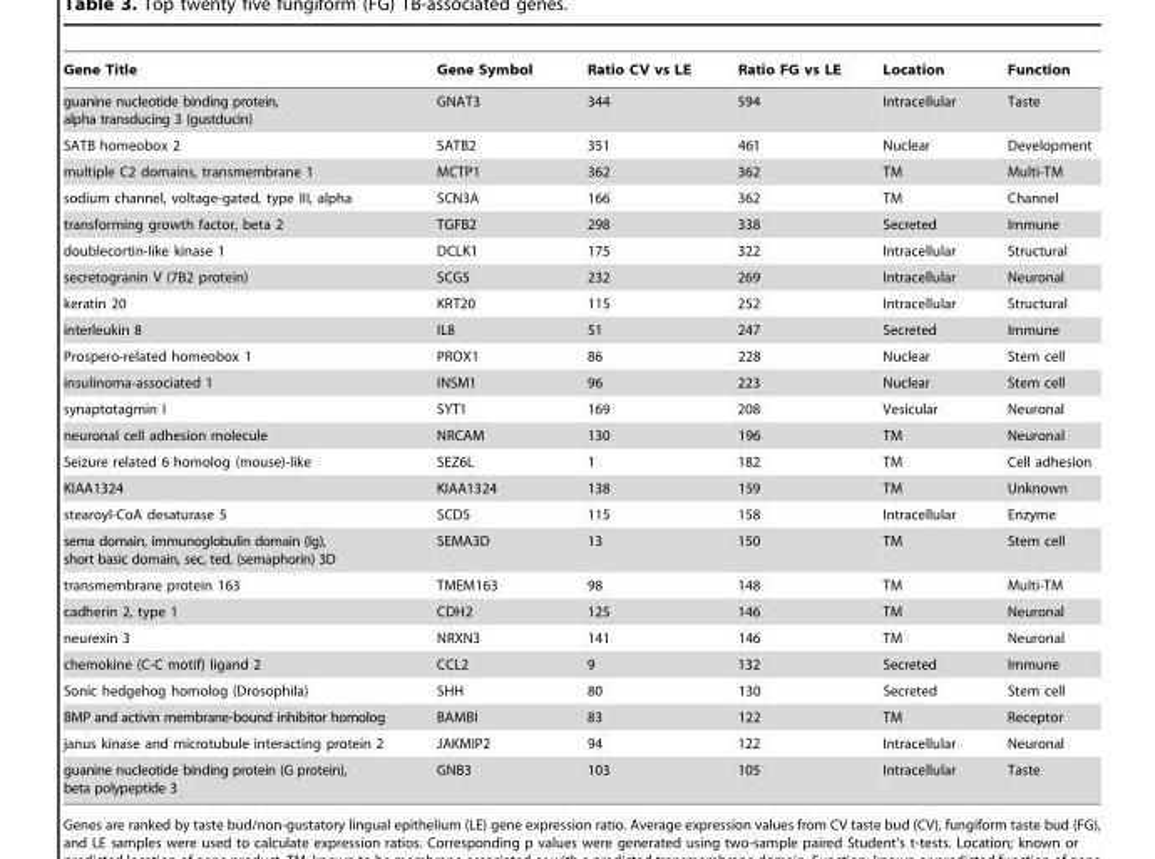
<table><thead><tr><td>Gene Title</td><td>Gene Symbol</td><td>Ratio CV vs LE</td><td>Ratio FG vs LE</td><td>Location</td><td>Function</td></tr></thead><tbody><tr><td>guanine nucleotide binding protein, alpha transducing 3 (gustducin)</td><td>GNAT3</td><td>344</td><td>594</td><td>Intracellular</td><td>Taste</td></tr><tr><td>SATB homeobox 2</td><td>SATB2</td><td>351</td><td>461</td><td>Nuclear</td><td>Development</td></tr><tr><td>multiple C2 domains, transmembrane 1</td><td>MCTP1</td><td>362</td><td>362</td><td>TM</td><td>Multi-TM</td></tr><tr><td>sodium channel, voltage-gated, type III, alpha</td><td>SCN3A</td><td>166</td><td>362</td><td>TM</td><td>Channel</td></tr><tr><td>transforming growth factor, beta 2</td><td>TGFB2</td><td>298</td><td>338</td><td>Secreted</td><td>Immune</td></tr><tr><td>doublecortin-like kinase 1</td><td>DCLK1</td><td>175</td><td>322</td><td>Intracellular</td><td>Structural</td></tr><tr><td>secretogranin V (7B2 protein)</td><td>SCG5</td><td>232</td><td>269</td><td>Intracellular</td><td>Neuronal</td></tr><tr><td>keratin 20</td><td>KRT20</td><td>115</td><td>252</td><td>Intracellular</td><td>Structural</td></tr><tr><td>interleukin 8</td><td>IL8</td><td>51</td><td>247</td><td>Secreted</td><td>Immune</td></tr><tr><td>Prospero-related homeobox 1</td><td>PROX1</td><td>86</td><td>228</td><td>Nuclear</td><td>Stem cell</td></tr><tr><td>insulinoma-associated 1</td><td>INSM1</td><td>96</td><td>223</td><td>Nuclear</td><td>Stem cell</td></tr><tr><td>synaptotagmin I</td><td>SYT1</td><td>169</td><td>208</td><td>Vesicular</td><td>Neuronal</td></tr><tr><td>neuronal cell adhesion molecule</td><td>NRCAM</td><td>130</td><td>196</td><td>TM</td><td>Neuronal</td></tr><tr><td>Seizure related 6 homolog (mouse)-like</td><td>SEZ6L</td><td>1</td><td>182</td><td>TM</td><td>Cell adhesion</td></tr><tr><td>KIAA1324</td><td>KIAA1324</td><td>138</td><td>159</td><td>TM</td><td>Unknown</td></tr><tr><td>stearoyl-CoA desaturase 5</td><td>SCD5</td><td>115</td><td>158</td><td>Intracellular</td><td>Enzyme</td></tr><tr><td>sema domain, immunoglobulin domain (Ig), short basic domain, sec, ted, (semaphorin) 3D</td><td>SEMA3D</td><td>13</td><td>150</td><td>TM</td><td>Stem cell</td></tr><tr><td>transmembrane protein 163</td><td>TMEM163</td><td>98</td><td>148</td><td>TM</td><td>Multi-TM</td></tr><tr><td>cadherin 2, type 1</td><td>CDH2</td><td>125</td><td>146</td><td>TM</td><td>Neuronal</td></tr><tr><td>neurexin 3</td><td>NRXN3</td><td>141</td><td>146</td><td>TM</td><td>Neuronal</td></tr><tr><td>chemokine (C-C motif) ligand 2</td><td>CCL2</td><td>9</td><td>132</td><td>Secreted</td><td>Immune</td></tr><tr><td>Sonic hedgehog homolog (Drosophila)</td><td>SHH</td><td>80</td><td>130</td><td>Secreted</td><td>Stem cell</td></tr><tr><td>BMP and activin membrane-bound inhibitor homolog</td><td>BAMBI</td><td>83</td><td>122</td><td>TM</td><td>Receptor</td></tr><tr><td>janus kinase and microtubule interacting protein 2</td><td>JAKMIP2</td><td>94</td><td>122</td><td>Intracellular</td><td>Neuronal</td></tr><tr><td>guanine nucleotide binding protein (G protein), beta polypeptide 3</td><td>GNB3</td><td>103</td><td>105</td><td>Intracellular</td><td>Taste</td></tr></tbody></table>